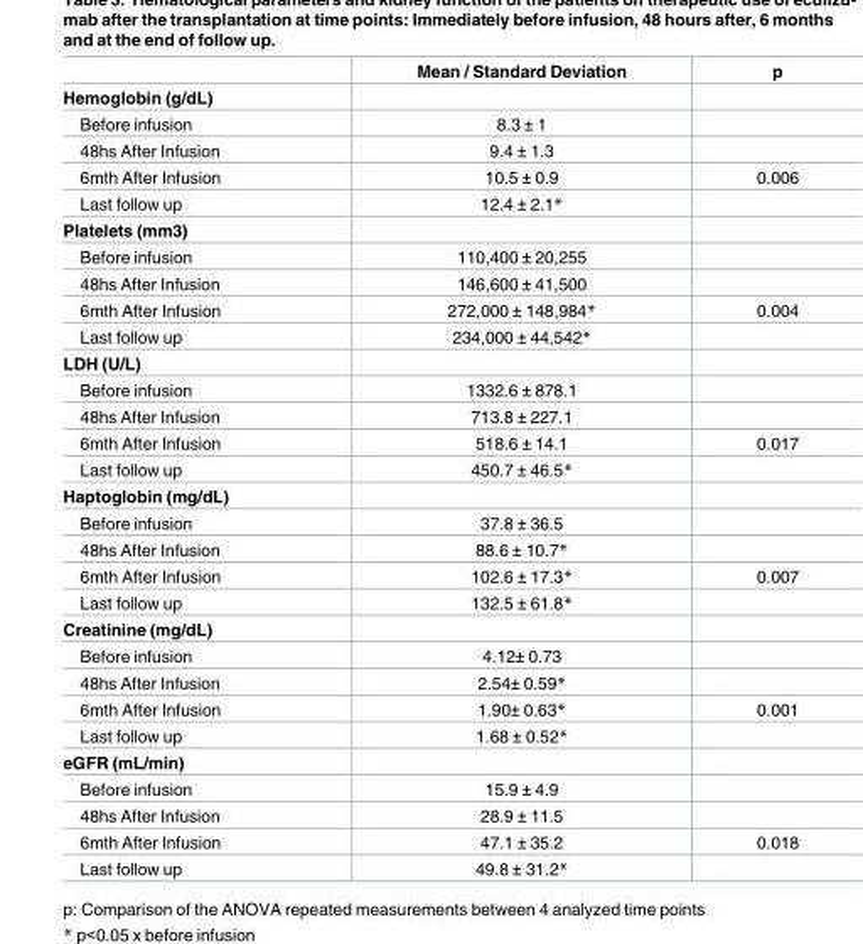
<table><thead><tr><td></td><td>Mean / Standard Deviation</td><td>p</td></tr></thead><tbody><tr><td colspan="3">Hemoglobin (g/dL)</td></tr><tr><td>Before infusion</td><td>8.3 ± 1</td><td></td></tr><tr><td>48hs After Infusion</td><td>9.4 ± 1.3</td><td></td></tr><tr><td>6mth After Infusion</td><td>10.5 ± 0.9</td><td>0.006</td></tr><tr><td>Last follow up</td><td>12.4 ± 2.1*</td><td></td></tr><tr><td colspan="3">Platelets (mm3)</td></tr><tr><td>Before infusion</td><td>110,400 ± 20,255</td><td></td></tr><tr><td>48hs After Infusion</td><td>146,600 ± 41,500</td><td></td></tr><tr><td>6mth After Infusion</td><td>272,000 ± 148,984*</td><td>0.004</td></tr><tr><td>Last follow up</td><td>234,000 ± 44,542*</td><td></td></tr><tr><td colspan="3">LDH (U/L)</td></tr><tr><td>Before infusion</td><td>1332.6 ± 878.1</td><td></td></tr><tr><td>48hs After Infusion</td><td>713.8 ± 227.1</td><td></td></tr><tr><td>6mth After Infusion</td><td>518.6 ± 14.1</td><td>0.017</td></tr><tr><td>Last follow up</td><td>450.7 ± 46.5*</td><td></td></tr><tr><td colspan="3">Haptoglobin (mg/dL)</td></tr><tr><td>Before infusion</td><td>37.8 ± 36.5</td><td></td></tr><tr><td>48hs After Infusion</td><td>88.6 ± 10.7*</td><td></td></tr><tr><td>6mth After Infusion</td><td>102.6 ± 17.3*</td><td>0.007</td></tr><tr><td>Last follow up</td><td>132.5 ± 61.8*</td><td></td></tr><tr><td colspan="3">Creatinine (mg/dL)</td></tr><tr><td>Before infusion</td><td>4.12± 0.73</td><td></td></tr><tr><td>48hs After Infusion</td><td>2.54± 0.59*</td><td></td></tr><tr><td>6mth After Infusion</td><td>1.90± 0.63*</td><td>0.001</td></tr><tr><td>Last follow up</td><td>1.68 ± 0.52*</td><td></td></tr><tr><td colspan="3">eGFR (mL/min)</td></tr><tr><td>Before infusion</td><td>15.9 ± 4.9</td><td></td></tr><tr><td>48hs After Infusion</td><td>28.9 ± 11.5</td><td></td></tr><tr><td>6mth After Infusion</td><td>47.1 ± 35.2</td><td>0.018</td></tr><tr><td>Last follow up</td><td>49.8 ± 31.2*</td><td></td></tr></tbody></table>